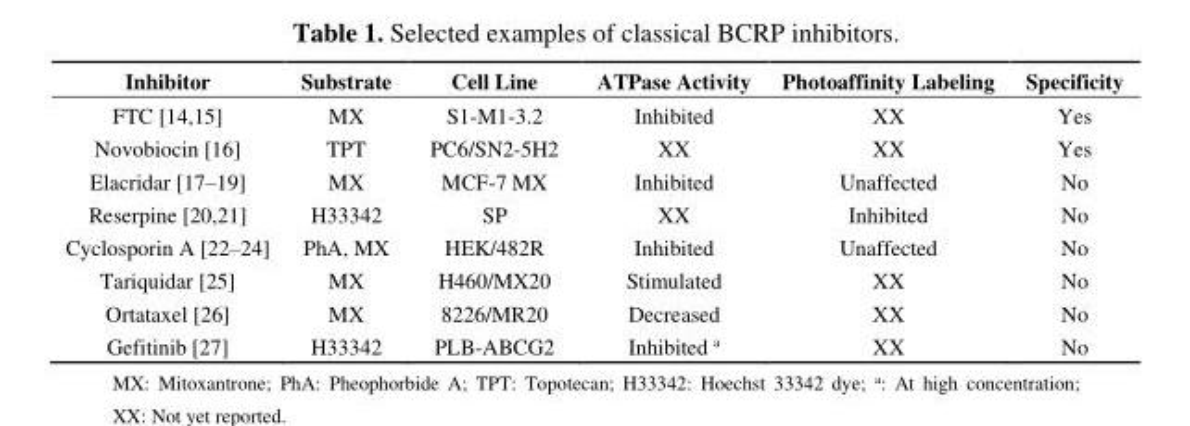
<table><thead><tr><td>Inhibitor</td><td>Substrate</td><td>Cell Line</td><td>ATPase Activity</td><td>Photoaffinity Labeling</td><td>Specificity</td></tr></thead><tbody><tr><td>FTC [14,15]</td><td>MX</td><td>S1-M1-3.2</td><td>Inhibited</td><td>XX</td><td>Yes</td></tr><tr><td>Novobiocin [16]</td><td>TPT</td><td>PC6/SN2-5H2</td><td>XX</td><td>XX</td><td>Yes</td></tr><tr><td>Elacridar [17–19]</td><td>MX</td><td>MCF-7 MX</td><td>Inhibited</td><td>Unaffected</td><td>No</td></tr><tr><td>Reserpine [20,21]</td><td>H33342</td><td>SP</td><td>XX</td><td>Inhibited</td><td>No</td></tr><tr><td>Cyclosporin A [22–24]</td><td>PhA, MX</td><td>HEK/482R</td><td>Inhibited</td><td>Unaffected</td><td>No</td></tr><tr><td>Tariquidar [25]</td><td>MX</td><td>H460/MX20</td><td>Stimulated</td><td>XX</td><td>No</td></tr><tr><td>Ortataxel [26]</td><td>MX</td><td>8226/MR20</td><td>Decreased</td><td>XX</td><td>No</td></tr><tr><td>Gefitinib [27]</td><td>H33342</td><td>PLB-ABCG2</td><td>Inhibited <sup>a</sup></td><td>XX</td><td>No</td></tr></tbody></table>